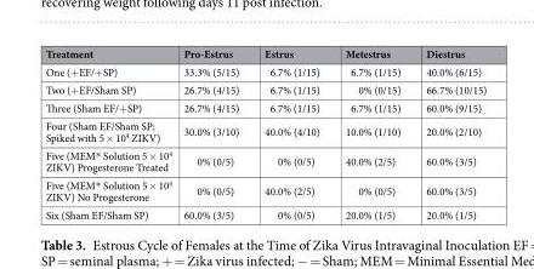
<table><thead><tr><td>Treatment</td><td>Pro-Estrus</td><td>Estrus</td><td>Metestrus</td><td>Diestrus</td></tr></thead><tbody><tr><td>One (+EF/+SP)</td><td>33.3% (5/15)</td><td>6.7% (1/15)</td><td>6.7% (1/15)</td><td>40.0% (6/15)</td></tr><tr><td>Two (+EF/Sham SP)</td><td>26.7% (4/15)</td><td>6.7% (1/15)</td><td>0% (0/15)</td><td>66.7% (10/15)</td></tr><tr><td>Three (Sham EF/+SP)</td><td>26.7% (4/15)</td><td>6.7% (1/15)</td><td>6.7% (1/15)</td><td>60.0% (9/15)</td></tr><tr><td>Four (Sham EF/Sham SP; Spiked with 5 × 10<sup>4</sup> ZIKV)</td><td>30.0% (3/10)</td><td>40.0% (4/10)</td><td>10.0% (1/10)</td><td>20.0% (2/10)</td></tr><tr><td>Five (MEM* Solution 5 × 10<sup>4</sup> ZIKV) Progesterone Treated</td><td>0% (0/5)</td><td>0% (0/5)</td><td>40.0% (2/5)</td><td>60.0% (3/5)</td></tr><tr><td>Five (MEM* Solution 5 × 10<sup>4</sup> ZIKV) No Progesterone</td><td>0% (0/5)</td><td>40.0% (2/5)</td><td>0% (0/5)</td><td>60.0% (3/5)</td></tr><tr><td>Six (Sham EF/Sham SP)</td><td>60.0% (3/5)</td><td>0% (0/5)</td><td>20.0% (1/5)</td><td>20.0% (1/5)</td></tr></tbody></table>